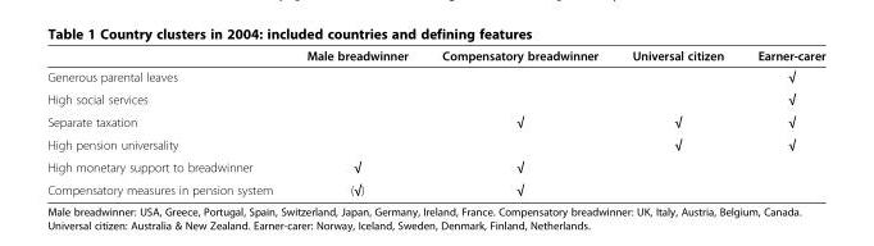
<table><thead><tr><td></td><td>Male breadwinner</td><td>Compensatory breadwinner</td><td>Universal citizen</td><td>Earner-carer</td></tr></thead><tbody><tr><td>Generous parental leaves</td><td></td><td></td><td></td><td>√</td></tr><tr><td>High social services</td><td></td><td></td><td></td><td>√</td></tr><tr><td>Separate taxation</td><td></td><td>√</td><td>√</td><td>√</td></tr><tr><td>High pension universality</td><td></td><td></td><td>√</td><td>√</td></tr><tr><td>High monetary support to breadwinner</td><td>√</td><td>√</td><td></td><td></td></tr><tr><td>Compensatory measures in pension system</td><td>(√)</td><td>√</td><td></td><td></td></tr></tbody></table>